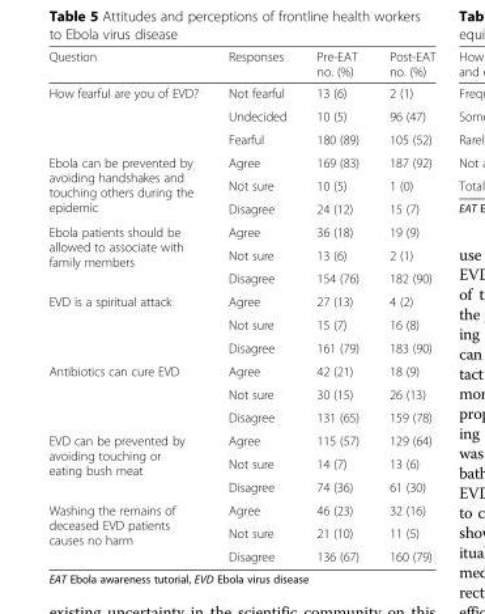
<table><thead><tr><td>Question</td><td>Responses</td><td>Pre-EAT no. (%)</td><td>Post-EAT no. (%)</td></tr></thead><tbody><tr><td rowspan="3">How fearful are you of EVD?</td><td>Not fearful</td><td>13 (6)</td><td>2 (1)</td></tr><tr><td>Undecided</td><td>10 (5)</td><td>96 (47)</td></tr><tr><td>Fearful</td><td>180 (89)</td><td>105 (52)</td></tr><tr><td rowspan="3">Ebola can be prevented by avoiding handshakes and touching others during the epidemic</td><td>Agree</td><td>169 (83)</td><td>187 (92)</td></tr><tr><td>Not sure</td><td>10 (5)</td><td>1 (0)</td></tr><tr><td>Disagree</td><td>24 (12)</td><td>15 (7)</td></tr><tr><td rowspan="3">Ebola patients should be allowed to associate with family members</td><td>Agree</td><td>36 (18)</td><td>19 (9)</td></tr><tr><td>Not sure</td><td>13 (6)</td><td>2 (1)</td></tr><tr><td>Disagree</td><td>154 (76)</td><td>182 (90)</td></tr><tr><td rowspan="3">EVD is a spiritual attack</td><td>Agree</td><td>27 (13)</td><td>4 (2)</td></tr><tr><td>Not sure</td><td>15 (7)</td><td>16 (8)</td></tr><tr><td>Disagree</td><td>161 (79)</td><td>183 (90)</td></tr><tr><td rowspan="3">Antibiotics can cure EVD</td><td>Agree</td><td>42 (21)</td><td>18 (9)</td></tr><tr><td>Not sure</td><td>30 (15)</td><td>26 (13)</td></tr><tr><td>Disagree</td><td>131 (65)</td><td>159 (78)</td></tr><tr><td rowspan="3">EVD can be prevented by avoiding touching or eating bush meat</td><td>Agree</td><td>115 (57)</td><td>129 (64)</td></tr><tr><td>Not sure</td><td>14 (7)</td><td>13 (6)</td></tr><tr><td>Disagree</td><td>74 (36)</td><td>61 (30)</td></tr><tr><td rowspan="3">Washing the remains of deceased EVD patients causes no harm</td><td>Agree</td><td>46 (23)</td><td>32 (16)</td></tr><tr><td>Not sure</td><td>21 (10)</td><td>11 (5)</td></tr><tr><td>Disagree</td><td>136 (67)</td><td>160 (79)</td></tr></tbody></table>